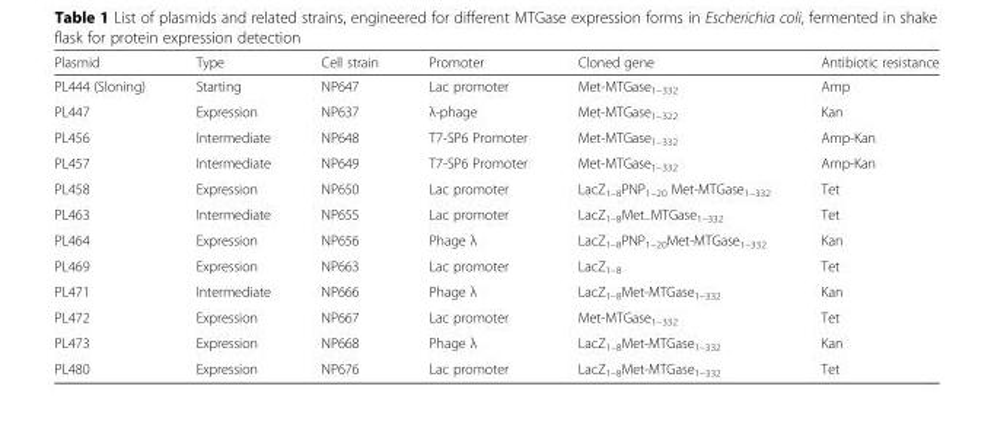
<table><thead><tr><td>Plasmid</td><td>Type</td><td>Cell strain</td><td>Promoter</td><td>Cloned gene</td><td>Antibiotic resistance</td></tr></thead><tbody><tr><td>PL444 (Sloning)</td><td>Starting</td><td>NP647</td><td>Lac promoter</td><td>Met-MTGase<sub>1–332</sub></td><td>Amp</td></tr><tr><td>PL447</td><td>Expression</td><td>NP637</td><td>λ-phage</td><td>Met-MTGase<sub>1–322</sub></td><td>Kan</td></tr><tr><td>PL456</td><td>Intermediate</td><td>NP648</td><td>T7-SP6 Promoter</td><td>Met-MTGase<sub>1–332</sub></td><td>Amp-Kan</td></tr><tr><td>PL457</td><td>Intermediate</td><td>NP649</td><td>T7-SP6 Promoter</td><td>Met-MTGase<sub>1–332</sub></td><td>Amp-Kan</td></tr><tr><td>PL458</td><td>Expression</td><td>NP650</td><td>Lac promoter</td><td>LacZ<sub>1–8</sub>PNP<sub>1–20</sub> Met-MTGase<sub>1–332</sub></td><td>Tet</td></tr><tr><td>PL463</td><td>Intermediate</td><td>NP655</td><td>Lac promoter</td><td>LacZ<sub>1–8</sub>Met<sub>−</sub>MTGase<sub>1–332</sub></td><td>Tet</td></tr><tr><td>PL464</td><td>Expression</td><td>NP656</td><td>Phage λ</td><td>LacZ<sub>1–8</sub>PNP<sub>1–20</sub>Met-MTGase<sub>1–332</sub></td><td>Kan</td></tr><tr><td>PL469</td><td>Expression</td><td>NP663</td><td>Lac promoter</td><td>LacZ<sub>1–8</sub></td><td>Tet</td></tr><tr><td>PL471</td><td>Intermediate</td><td>NP666</td><td>Phage λ</td><td>LacZ<sub>1–8</sub>Met-MTGase<sub>1–332</sub></td><td>Kan</td></tr><tr><td>PL472</td><td>Expression</td><td>NP667</td><td>Lac promoter</td><td>Met-MTGase<sub>1–332</sub></td><td>Tet</td></tr><tr><td>PL473</td><td>Expression</td><td>NP668</td><td>Phage λ</td><td>LacZ<sub>1–8</sub>Met-MTGase<sub>1–332</sub></td><td>Kan</td></tr><tr><td>PL480</td><td>Expression</td><td>NP676</td><td>Lac promoter</td><td>LacZ<sub>1–8</sub>Met-MTGase<sub>1–332</sub></td><td>Tet</td></tr></tbody></table>